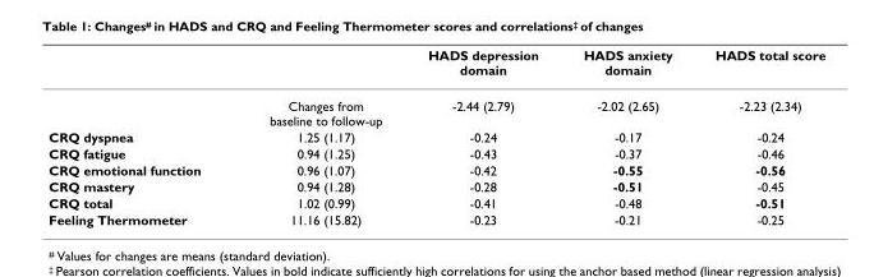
<table><thead><tr><td></td><td></td><td>HADS depression domain</td><td>HADS anxiety domain</td><td>HADS total score</td></tr></thead><tbody><tr><td></td><td>Changes from baseline to follow-up</td><td>-2.44 (2.79)</td><td>-2.02 (2.65)</td><td>-2.23 (2.34)</td></tr><tr><td>CRQ dyspnea</td><td>1.25 (1.17)</td><td>-0.24</td><td>-0.17</td><td>-0.24</td></tr><tr><td>CRQ fatigue</td><td>0.94 (1.25)</td><td>-0.43</td><td>-0.37</td><td>-0.46</td></tr><tr><td>CRQ emotional function</td><td>0.96 (1.07)</td><td>-0.42</td><td>-0.55</td><td>-0.56</td></tr><tr><td>CRQ mastery</td><td>0.94 (1.28)</td><td>-0.28</td><td>-0.51</td><td>-0.45</td></tr><tr><td>CRQ total</td><td>1.02 (0.99)</td><td>-0.41</td><td>-0.48</td><td>-0.51</td></tr><tr><td>Feeling Thermometer</td><td>11.16 (15.82)</td><td>-0.23</td><td>-0.21</td><td>-0.25</td></tr></tbody></table>